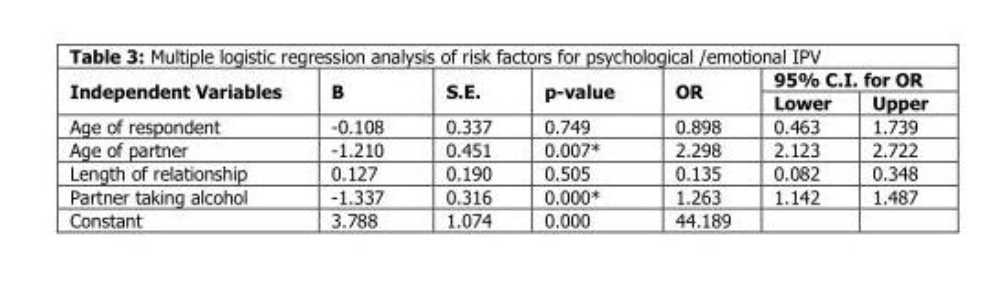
<table><thead><tr><td rowspan="2">Independent Variables</td><td rowspan="2">B</td><td rowspan="2">S.E.</td><td rowspan="2">p-value</td><td rowspan="2">OR</td><td colspan="2">95% C.I. for OR</td></tr><tr><td>Lower</td><td>Upper</td></tr></thead><tbody><tr><td>Age of respondent</td><td>-0.108</td><td>0.337</td><td>0.749</td><td>0.898</td><td>0.463</td><td>1.739</td></tr><tr><td>Age of partner</td><td>-1.210</td><td>0.451</td><td>0.007*</td><td>2.298</td><td>2.123</td><td>2.722</td></tr><tr><td>Length of relationship</td><td>0.127</td><td>0.190</td><td>0.505</td><td>0.135</td><td>0.082</td><td>0.348</td></tr><tr><td>Partner taking alcohol</td><td>-1.337</td><td>0.316</td><td>0.000*</td><td>1.263</td><td>1.142</td><td>1.487</td></tr><tr><td>Constant</td><td>3.788</td><td>1.074</td><td>0.000</td><td>44.189</td><td></td><td></td></tr></tbody></table>